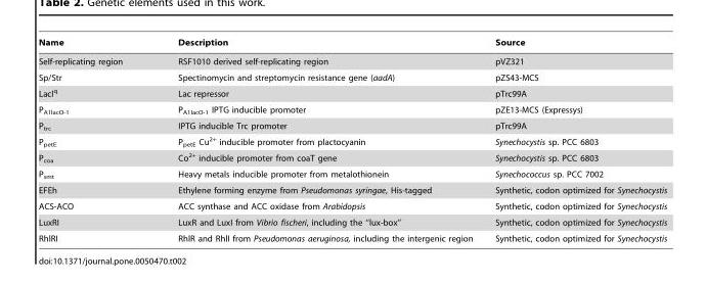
<table><thead><tr><td>Name</td><td>Description</td><td>Source</td></tr></thead><tbody><tr><td>Self-replicating region</td><td>RSF1010 derived self-replicating region</td><td>pVZ321</td></tr><tr><td>Sp/Str</td><td>Spectinomycin and streptomycin resistance gene (aadA)</td><td>pZS43-MCS</td></tr><tr><td>LacI<sup>q</sup></td><td>Lac repressor</td><td>pTrc99A</td></tr><tr><td>P<sub>A1lacO-1</sub></td><td>P<sub>A1lacO-1</sub> IPTG inducible promoter</td><td>pZE13-MCS (Expressys)</td></tr><tr><td>P<sub>trc</sub></td><td>IPTG inducible Trc promoter</td><td>pTrc99A</td></tr><tr><td>P<sub>petE</sub></td><td>P<sub>petE</sub> Cu<sup>2+</sup> inducible promoter from plactocyanin</td><td>Synechocystis sp. PCC 6803</td></tr><tr><td>P<sub>coa</sub></td><td>Co<sup>2+</sup> inducible promoter from coaT gene</td><td>Synechocystis sp. PCC 6803</td></tr><tr><td>P<sub>smt</sub></td><td>Heavy metals inducible promoter from metalothionein</td><td>Synechococcus sp. PCC 7002</td></tr><tr><td>EFEh</td><td>Ethylene forming enzyme from Pseudomonas syringae, His-tagged</td><td>Synthetic, codon optimized for Synechocystis</td></tr><tr><td>ACS-ACO</td><td>ACC synthase and ACC oxidase from Arabidopsis</td><td>Synthetic, codon optimized for Synechocystis</td></tr><tr><td>LuxRI</td><td>LuxR and LuxI from Vibrio fischeri, including the ‘‘lux-box’’</td><td>Synthetic, codon optimized for Synechocystis</td></tr><tr><td>RhlRI</td><td>RhlR and RhlI from Pseudomonas aeruginosa, including the intergenic region</td><td>Synthetic, codon optimized for Synechocystis</td></tr></tbody></table>